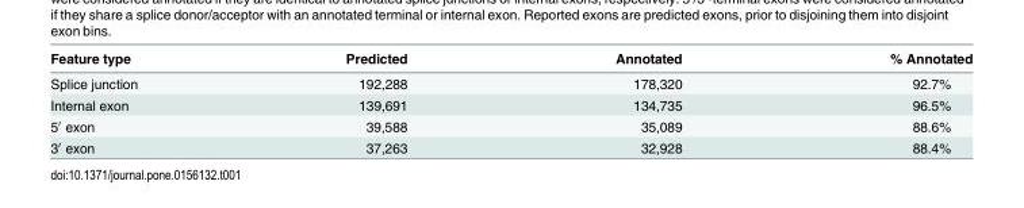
<table><thead><tr><td>Feature type</td><td>Predicted</td><td>Annotated</td><td>% Annotated</td></tr></thead><tbody><tr><td>Splice junction</td><td>192,288</td><td>178,320</td><td>92.7%</td></tr><tr><td>Internal exon</td><td>139,691</td><td>134,735</td><td>96.5%</td></tr><tr><td>5′ exon</td><td>39,588</td><td>35,089</td><td>88.6%</td></tr><tr><td>3′ exon</td><td>37,263</td><td>32,928</td><td>88.4%</td></tr></tbody></table>